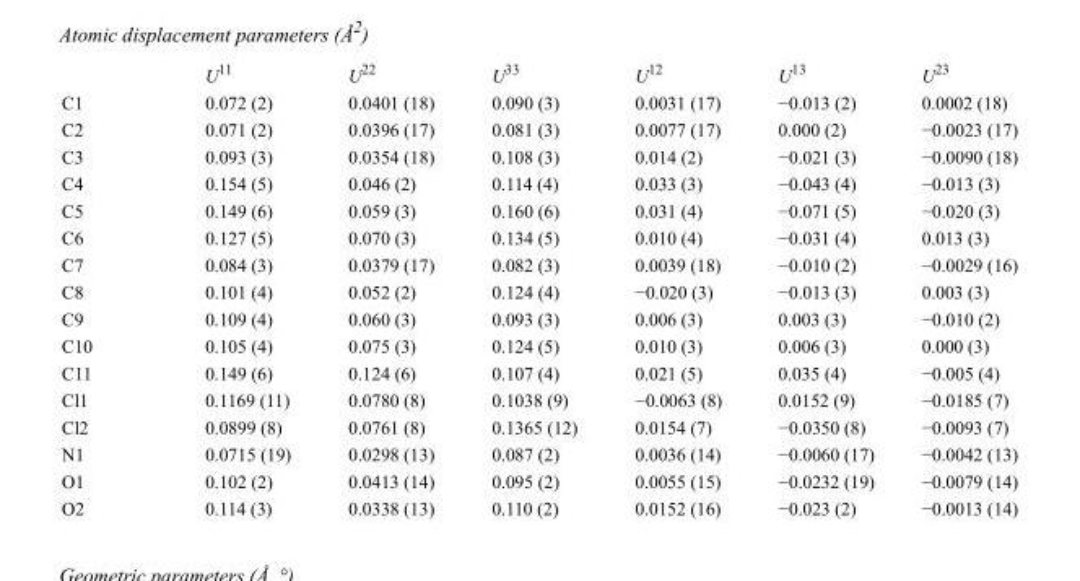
<table><thead><tr><td></td><td>U<sup>11</sup></td><td>U<sup>22</sup></td><td>U<sup>33</sup></td><td>U<sup>12</sup></td><td>U<sup>13</sup></td><td>U<sup>23</sup></td></tr></thead><tbody><tr><td>C1</td><td>0.072 (2)</td><td>0.0401 (18)</td><td>0.090 (3)</td><td>0.0031 (17)</td><td>−0.013 (2)</td><td>0.0002 (18)</td></tr><tr><td>C2</td><td>0.071 (2)</td><td>0.0396 (17)</td><td>0.081 (3)</td><td>0.0077 (17)</td><td>0.000 (2)</td><td>−0.0023 (17)</td></tr><tr><td>C3</td><td>0.093 (3)</td><td>0.0354 (18)</td><td>0.108 (3)</td><td>0.014 (2)</td><td>−0.021 (3)</td><td>−0.0090 (18)</td></tr><tr><td>C4</td><td>0.154 (5)</td><td>0.046 (2)</td><td>0.114 (4)</td><td>0.033 (3)</td><td>−0.043 (4)</td><td>−0.013 (3)</td></tr><tr><td>C5</td><td>0.149 (6)</td><td>0.059 (3)</td><td>0.160 (6)</td><td>0.031 (4)</td><td>−0.071 (5)</td><td>−0.020 (3)</td></tr><tr><td>C6</td><td>0.127 (5)</td><td>0.070 (3)</td><td>0.134 (5)</td><td>0.010 (4)</td><td>−0.031 (4)</td><td>0.013 (3)</td></tr><tr><td>C7</td><td>0.084 (3)</td><td>0.0379 (17)</td><td>0.082 (3)</td><td>0.0039 (18)</td><td>−0.010 (2)</td><td>−0.0029 (16)</td></tr><tr><td>C8</td><td>0.101 (4)</td><td>0.052 (2)</td><td>0.124 (4)</td><td>−0.020 (3)</td><td>−0.013 (3)</td><td>0.003 (3)</td></tr><tr><td>C9</td><td>0.109 (4)</td><td>0.060 (3)</td><td>0.093 (3)</td><td>0.006 (3)</td><td>0.003 (3)</td><td>−0.010 (2)</td></tr><tr><td>C10</td><td>0.105 (4)</td><td>0.075 (3)</td><td>0.124 (5)</td><td>0.010 (3)</td><td>0.006 (3)</td><td>0.000 (3)</td></tr><tr><td>C11</td><td>0.149 (6)</td><td>0.124 (6)</td><td>0.107 (4)</td><td>0.021 (5)</td><td>0.035 (4)</td><td>−0.005 (4)</td></tr><tr><td>Cl1</td><td>0.1169 (11)</td><td>0.0780 (8)</td><td>0.1038 (9)</td><td>−0.0063 (8)</td><td>0.0152 (9)</td><td>−0.0185 (7)</td></tr><tr><td>Cl2</td><td>0.0899 (8)</td><td>0.0761 (8)</td><td>0.1365 (12)</td><td>0.0154 (7)</td><td>−0.0350 (8)</td><td>−0.0093 (7)</td></tr><tr><td>N1</td><td>0.0715 (19)</td><td>0.0298 (13)</td><td>0.087 (2)</td><td>0.0036 (14)</td><td>−0.0060 (17)</td><td>−0.0042 (13)</td></tr><tr><td>O1</td><td>0.102 (2)</td><td>0.0413 (14)</td><td>0.095 (2)</td><td>0.0055 (15)</td><td>−0.0232 (19)</td><td>−0.0079 (14)</td></tr><tr><td>O2</td><td>0.114 (3)</td><td>0.0338 (13)</td><td>0.110 (2)</td><td>0.0152 (16)</td><td>−0.023 (2)</td><td>−0.0013 (14)</td></tr></tbody></table>